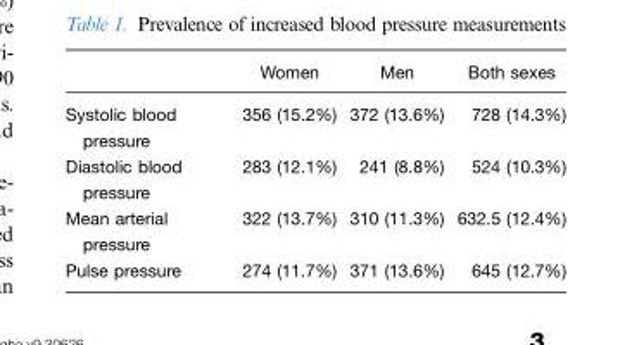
<table><thead><tr><td></td><td>Women</td><td>Men</td><td>Both sexes</td></tr></thead><tbody><tr><td>Systolic blood pressure</td><td>356 (15.2%)</td><td>372 (13.6%)</td><td>728 (14.3%)</td></tr><tr><td>Diastolic blood pressure</td><td>283 (12.1%)</td><td>241 (8.8%)</td><td>524 (10.3%)</td></tr><tr><td>Mean arterial pressure</td><td>322 (13.7%)</td><td>310 (11.3%)</td><td>632.5 (12.4%)</td></tr><tr><td>Pulse pressure</td><td>274 (11.7%)</td><td>371 (13.6%)</td><td>645 (12.7%)</td></tr></tbody></table>